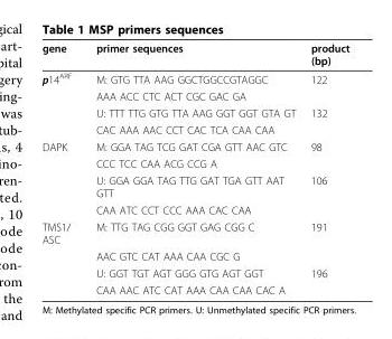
<table><thead><tr><td>gene</td><td>primer sequences</td><td>product (bp)</td></tr></thead><tbody><tr><td rowspan="4">p14<sup>ARF</sup></td><td>M: GTG TTA AAG GGCTGGCCGTAGGC</td><td>122</td></tr><tr><td>AAA ACC CTC ACT CGC GAC GA</td><td></td></tr><tr><td>U: TTT TTG GTG TTA AAG GGT GGT GTA GT</td><td>132</td></tr><tr><td>CAC AAA AAC CCT CAC TCA CAA CAA</td><td></td></tr><tr><td rowspan="4">DAPK</td><td>M: GGA TAG TCG GAT CGA GTT AAC GTC</td><td>98</td></tr><tr><td>CCC TCC CAA ACG CCG A</td><td></td></tr><tr><td>U: GGA GGA TAG TTG GAT TGA GTT AAT GTT</td><td>106</td></tr><tr><td>CAA ATC CCT CCC AAA CAC CAA</td><td></td></tr><tr><td rowspan="4">TMS1/ ASC</td><td>M: TTG TAG CGG GGT GAG CGG C</td><td>191</td></tr><tr><td>AAC GTC CAT AAA CAA CGC G</td><td></td></tr><tr><td>U: GGT TGT AGT GGG GTG AGT GGT</td><td>196</td></tr><tr><td>CAA AAC ATC CAT AAA CAA CAA CAC A</td><td></td></tr></tbody></table>